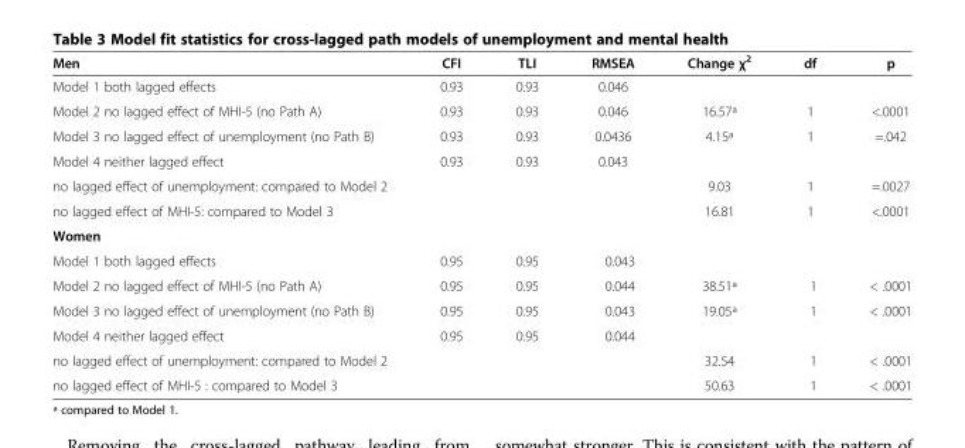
<table><thead><tr><td>Men</td><td>CFI</td><td>TLI</td><td>RMSEA</td><td>Change χ<sup>2</sup></td><td>df</td><td>p</td></tr></thead><tbody><tr><td>Model 1 both lagged effects</td><td>0.93</td><td>0.93</td><td>0.046</td><td></td><td></td><td></td></tr><tr><td>Model 2 no lagged effect of MHI-5 (no Path A)</td><td>0.93</td><td>0.93</td><td>0.046</td><td>16.57ª</td><td>1</td><td>&lt;.0001</td></tr><tr><td>Model 3 no lagged effect of unemployment (no Path B)</td><td>0.93</td><td>0.93</td><td>0.0436</td><td>4.15ª</td><td>1</td><td>=.042</td></tr><tr><td>Model 4 neither lagged effect</td><td>0.93</td><td>0.93</td><td>0.043</td><td></td><td></td><td></td></tr><tr><td>no lagged effect of unemployment: compared to Model 2</td><td></td><td></td><td></td><td>9.03</td><td>1</td><td>=.0027</td></tr><tr><td>no lagged effect of MHI-5: compared to Model 3</td><td></td><td></td><td></td><td>16.81</td><td>1</td><td>&lt;.0001</td></tr><tr><td colspan="7">Women</td></tr><tr><td>Model 1 both lagged effects</td><td>0.95</td><td>0.95</td><td>0.043</td><td></td><td></td><td></td></tr><tr><td>Model 2 no lagged effect of MHI-5 (no Path A)</td><td>0.95</td><td>0.95</td><td>0.044</td><td>38.51ª</td><td>1</td><td>&lt; .0001</td></tr><tr><td>Model 3 no lagged effect of unemployment (no Path B)</td><td>0.95</td><td>0.95</td><td>0.043</td><td>19.05ª</td><td>1</td><td>&lt; .0001</td></tr><tr><td>Model 4 neither lagged effect</td><td>0.95</td><td>0.95</td><td>0.044</td><td></td><td></td><td></td></tr><tr><td>no lagged effect of unemployment: compared to Model 2</td><td></td><td></td><td></td><td>32.54</td><td>1</td><td>&lt; .0001</td></tr><tr><td>no lagged effect of MHI-5 : compared to Model 3</td><td></td><td></td><td></td><td>50.63</td><td>1</td><td>&lt; .0001</td></tr></tbody></table>